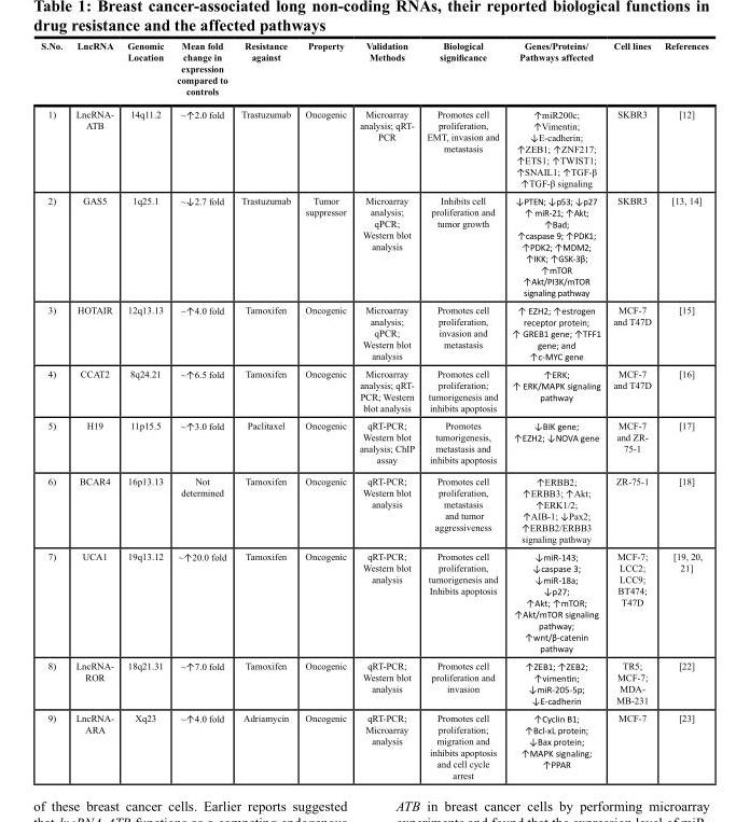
<table><thead><tr><td>S.No.</td><td>LncRNA</td><td>Genomic Location</td><td>Mean fold change in expression compared to controls</td><td>Resistance against</td><td>Property</td><td>Validation Methods</td><td>Biological significance</td><td>Genes/Proteins/ Pathways affected</td><td>Cell lines</td><td>References</td></tr></thead><tbody><tr><td>1)</td><td>LncRNA- ATB</td><td>14q11.2</td><td>~↑2.0 fold</td><td>Trastuzumab</td><td>Oncogenic</td><td>Microarray analysis; qRT- PCR</td><td>Promotes cell proliferation, EMT, invasion and metastasis</td><td>↑miR200c; ↑Vimentin; ↓E-cadherin; ↑ZEB1; ↑ZNF217; ↑ETS1; ↑TWIST1; ↑SNAIL1; ↑TGF-β ↑TGF-β signaling</td><td>SKBR3</td><td>[12]</td></tr><tr><td>2)</td><td>GAS5</td><td>1q25.1</td><td>~↓2.7 fold</td><td>Trastuzumab</td><td>Tumor suppressor</td><td>Microarray analysis; qPCR; Western blot analysis</td><td>Inhibits cell proliferation and tumor growth</td><td>↓PTEN; ↓p53; ↓p27 ↑ miR-21; ↑Akt; ↑Bad; ↑caspase 9; ↑PDK1; ↑PDK2; ↑MDM2; ↑IKK; ↑GSK-3β; ↑mTOR ↑Akt/PI3K/mTOR signaling pathway</td><td>SKBR3</td><td>[13, 14]</td></tr><tr><td>3)</td><td>HOTAIR</td><td>12q13.13</td><td>~↑4.0 fold</td><td>Tamoxifen</td><td>Oncogenic</td><td>Microarray analysis; qPCR; Western blot analysis</td><td>Promotes cell proliferation, invasion and metastasis</td><td>↑ EZH2; ↑estrogen receptor protein; ↑ GREB1 gene; ↑TFF1 gene; and ↑c-MYC gene</td><td>MCF-7 and T47D</td><td>[15]</td></tr><tr><td>4)</td><td>CCAT2</td><td>8q24.21</td><td>~↑6.5 fold</td><td>Tamoxifen</td><td>Oncogenic</td><td>Microarray analysis; qRT- PCR; Western blot analysis</td><td>Promotes cell proliferation; tumorigenesis and inhibits apoptosis</td><td>↑ERK; ↑ ERK/MAPK signaling pathway</td><td>MCF-7 and T47D</td><td>[16]</td></tr><tr><td>5)</td><td>H19</td><td>11p15.5</td><td>~↑3.0 fold</td><td>Paclitaxel</td><td>Oncogenic</td><td>qRT-PCR; Western blot analysis; ChIP assay</td><td>Promotes tumorigenesis, metastasis and inhibits apoptosis</td><td>↓BIK gene; ↑EZH2; ↓NOVA gene</td><td>MCF-7 and ZR- 75-1</td><td>[17]</td></tr><tr><td>6)</td><td>BCAR4</td><td>16p13.13</td><td>Not determined</td><td>Tamoxifen</td><td>Oncogenic</td><td>qRT-PCR; Western blot analysis</td><td>Promotes cell proliferation, metastasis and tumor aggressiveness</td><td>↑ERBB2; ↑ERBB3; ↑Akt; ↑ERK1/2; ↑AIB-1; ↓Pax2; ↑ERBB2/ERBB3 signaling pathway</td><td>ZR-75-1</td><td>[18]</td></tr><tr><td>7)</td><td>UCA1</td><td>19q13.12</td><td>~↑20.0 fold</td><td>Tamoxifen</td><td>Oncogenic</td><td>qRT-PCR; Western blot analysis</td><td>Promotes cell proliferation, tumorigenesis and Inhibits apoptosis</td><td>↓miR-143; ↓caspase 3; ↓miR-18a; ↓p27; ↑Akt; ↑mTOR; ↑Akt/mTOR signaling pathway; ↑wnt/β-catenin pathway</td><td>MCF-7; LCC2; LCC9; BT474; T47D</td><td>[19, 20, 21]</td></tr><tr><td>8)</td><td>LncRNA- ROR</td><td>18q21.31</td><td>~↑7.0 fold</td><td>Tamoxifen</td><td>Oncogenic</td><td>qRT-PCR; Western blot analysis</td><td>Promotes cell proliferation and invasion</td><td>↑ZEB1; ↑ZEB2; ↑vimentin; ↓miR-205-5p; ↓E-cadherin</td><td>TR5; MCF-7; MDA- MB-231</td><td>[22]</td></tr><tr><td>9)</td><td>LncRNA- ARA</td><td>Xq23</td><td>~↑4.0 fold</td><td>Adriamycin</td><td>Oncogenic</td><td>qRT-PCR; Microarray analysis</td><td>Promotes cell proliferation; migration and inhibits apoptosis and cell cycle arrest</td><td>↑Cyclin B1; ↑Bcl-xL protein; ↓Bax protein; ↑MAPK signaling; ↑PPAR</td><td>MCF-7</td><td>[23]</td></tr></tbody></table>